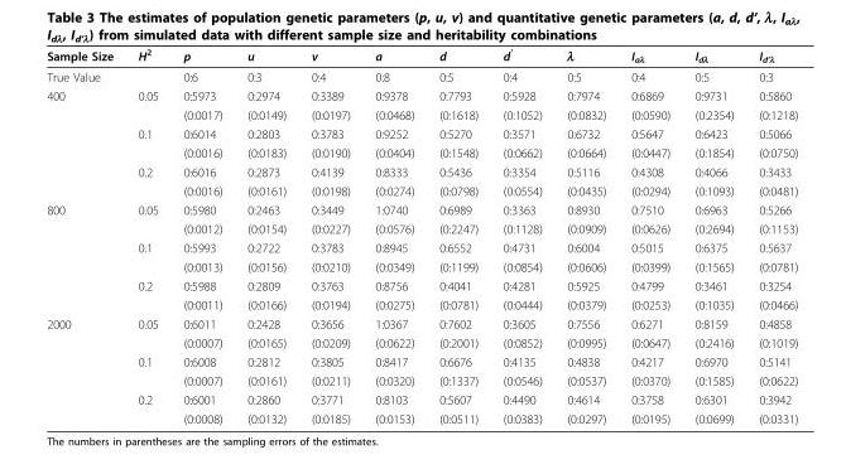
<table><thead><tr><td>Sample Size</td><td>H<sup>2</sup></td><td>p</td><td>u</td><td>v</td><td>a</td><td>d</td><td>d<sup>’</sup></td><td>λ</td><td>I<sub>aλ</sub></td><td>I<sub>dλ</sub></td><td>I<sub>d’λ</sub></td></tr></thead><tbody><tr><td>True Value</td><td></td><td>0:6</td><td>0:3</td><td>0:4</td><td>0:8</td><td>0:5</td><td>0:4</td><td>0:5</td><td>0:4</td><td>0:5</td><td>0:3</td></tr><tr><td rowspan="6">400</td><td>0.05</td><td>0:5973</td><td>0:2974</td><td>0:3389</td><td>0:9378</td><td>0:7793</td><td>0:5928</td><td>0:7974</td><td>0:6869</td><td>0:9731</td><td>0:5860</td></tr><tr><td></td><td>(0:0017)</td><td>(0:0149)</td><td>(0:0197)</td><td>(0:0468)</td><td>(0:1618)</td><td>(0:1052)</td><td>(0:0832)</td><td>(0:0590)</td><td>(0:2354)</td><td>(0:1218)</td></tr><tr><td>0.1</td><td>0:6014</td><td>0:2803</td><td>0:3783</td><td>0:9252</td><td>0:5270</td><td>0:3571</td><td>0:6732</td><td>0:5647</td><td>0:6423</td><td>0:5066</td></tr><tr><td></td><td>(0:0016)</td><td>(0:0183)</td><td>(0:0190)</td><td>(0:0404)</td><td>(0:1548)</td><td>(0:0662)</td><td>(0:0664)</td><td>(0:0447)</td><td>(0:1854)</td><td>(0:0750)</td></tr><tr><td>0.2</td><td>0:6016</td><td>0:2873</td><td>0:4139</td><td>0:8333</td><td>0:5436</td><td>0:3354</td><td>0:5116</td><td>0:4308</td><td>0:4066</td><td>0:3433</td></tr><tr><td></td><td>(0:0016)</td><td>(0:0161)</td><td>(0:0198)</td><td>(0:0274)</td><td>(0:0798)</td><td>(0:0554)</td><td>(0:0435)</td><td>(0:0294)</td><td>(0:1093)</td><td>(0:0481)</td></tr><tr><td rowspan="6">800</td><td>0.05</td><td>0:5980</td><td>0:2463</td><td>0:3449</td><td>1:0740</td><td>0:6989</td><td>0:3363</td><td>0:8930</td><td>0:7510</td><td>0:6963</td><td>0:5266</td></tr><tr><td></td><td>(0:0012)</td><td>(0:0154)</td><td>(0:0227)</td><td>(0:0576)</td><td>(0:2247)</td><td>(0:1128)</td><td>(0:0909)</td><td>(0:0626)</td><td>(0:2694)</td><td>(0:1153)</td></tr><tr><td>0.1</td><td>0:5993</td><td>0:2722</td><td>0:3783</td><td>0:8945</td><td>0:6552</td><td>0:4731</td><td>0:6004</td><td>0:5015</td><td>0:6375</td><td>0:5637</td></tr><tr><td></td><td>(0:0013)</td><td>(0:0156)</td><td>(0:0210)</td><td>(0:0349)</td><td>(0:1199)</td><td>(0:0854)</td><td>(0:0606)</td><td>(0:0399)</td><td>(0:1565)</td><td>(0:0781)</td></tr><tr><td>0.2</td><td>0:5988</td><td>0:2809</td><td>0:3763</td><td>0:8756</td><td>0:4041</td><td>0:4281</td><td>0:5925</td><td>0:4799</td><td>0:3461</td><td>0:3254</td></tr><tr><td></td><td>(0:0011)</td><td>(0:0166)</td><td>(0:0194)</td><td>(0:0275)</td><td>(0:0781)</td><td>(0:0444)</td><td>(0:0379)</td><td>(0:0253)</td><td>(0:1035)</td><td>(0:0466)</td></tr><tr><td rowspan="6">2000</td><td>0.05</td><td>0:6011</td><td>0:2428</td><td>0:3656</td><td>1:0367</td><td>0:7602</td><td>0:3605</td><td>0:7556</td><td>0:6271</td><td>0:8159</td><td>0:4858</td></tr><tr><td></td><td>(0:0007)</td><td>(0:0165)</td><td>(0:0209)</td><td>(0:0622)</td><td>(0:2001)</td><td>(0:0852)</td><td>(0:0995)</td><td>(0:0647)</td><td>(0:2416)</td><td>(0:1019)</td></tr><tr><td>0.1</td><td>0:6008</td><td>0:2812</td><td>0:3805</td><td>0:8417</td><td>0:6676</td><td>0:4135</td><td>0:4838</td><td>0:4217</td><td>0:6970</td><td>0:5141</td></tr><tr><td></td><td>(0:0007)</td><td>(0:0161)</td><td>(0:0211)</td><td>(0:0320)</td><td>(0:1337)</td><td>(0:0546)</td><td>(0:0537)</td><td>(0:0370)</td><td>(0:1585)</td><td>(0:0622)</td></tr><tr><td>0.2</td><td>0:6001</td><td>0:2860</td><td>0:3771</td><td>0:8103</td><td>0:5607</td><td>0:4490</td><td>0:4614</td><td>0:3758</td><td>0:6301</td><td>0:3942</td></tr><tr><td></td><td>(0:0008)</td><td>(0:0132)</td><td>(0:0185)</td><td>(0:0153)</td><td>(0:0511)</td><td>(0:0383)</td><td>(0:0297)</td><td>(0:0195)</td><td>(0:0699)</td><td>(0:0331)</td></tr></tbody></table>